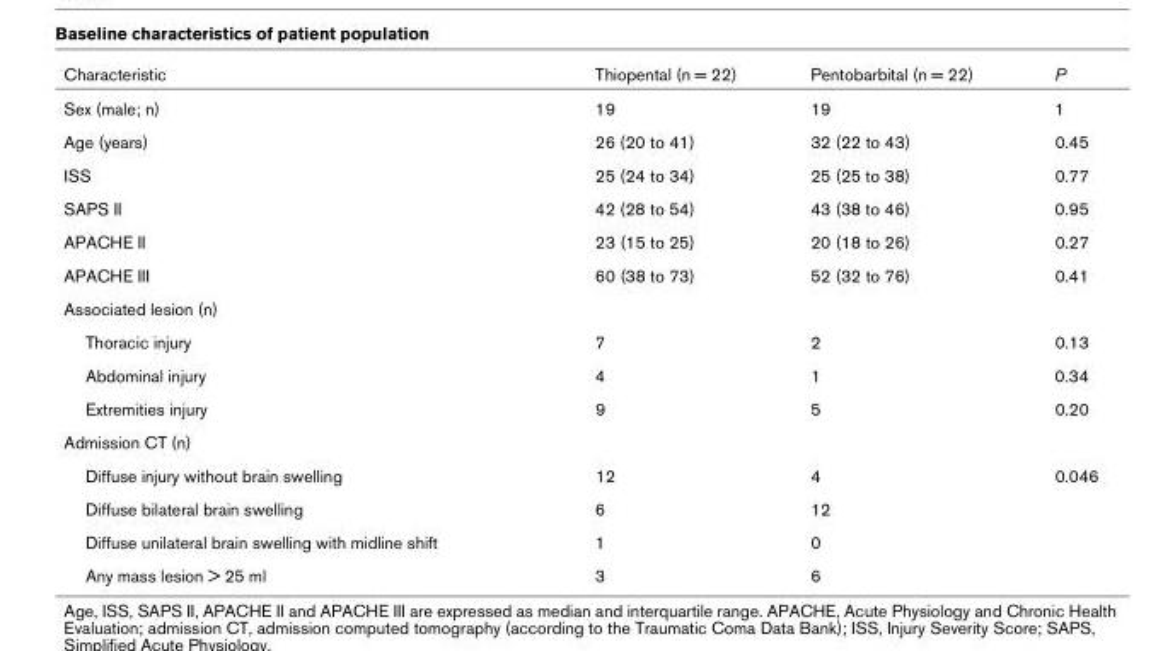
<table><thead><tr><td>Characteristic</td><td>Thiopental (n = 22)</td><td>Pentobarbital (n = 22)</td><td>P</td></tr></thead><tbody><tr><td>Sex (male; n)</td><td>19</td><td>19</td><td>1</td></tr><tr><td>Age (years)</td><td>26 (20 to 41)</td><td>32 (22 to 43)</td><td>0.45</td></tr><tr><td>ISS</td><td>25 (24 to 34)</td><td>25 (25 to 38)</td><td>0.77</td></tr><tr><td>SAPS II</td><td>42 (28 to 54)</td><td>43 (38 to 46)</td><td>0.95</td></tr><tr><td>APACHE II</td><td>23 (15 to 25)</td><td>20 (18 to 26)</td><td>0.27</td></tr><tr><td>APACHE III</td><td>60 (38 to 73)</td><td>52 (32 to 76)</td><td>0.41</td></tr><tr><td colspan="4">Associated lesion (n)</td></tr><tr><td>Thoracic injury</td><td>7</td><td>2</td><td>0.13</td></tr><tr><td>Abdominal injury</td><td>4</td><td>1</td><td>0.34</td></tr><tr><td>Extremities injury</td><td>9</td><td>5</td><td>0.20</td></tr><tr><td colspan="4">Admission CT (n)</td></tr><tr><td>Diffuse injury without brain swelling</td><td>12</td><td>4</td><td>0.046</td></tr><tr><td>Diffuse bilateral brain swelling</td><td>6</td><td>12</td><td></td></tr><tr><td>Diffuse unilateral brain swelling with midline shift</td><td>1</td><td>0</td><td></td></tr><tr><td>Any mass lesion &gt; 25 ml</td><td>3</td><td>6</td><td></td></tr></tbody></table>